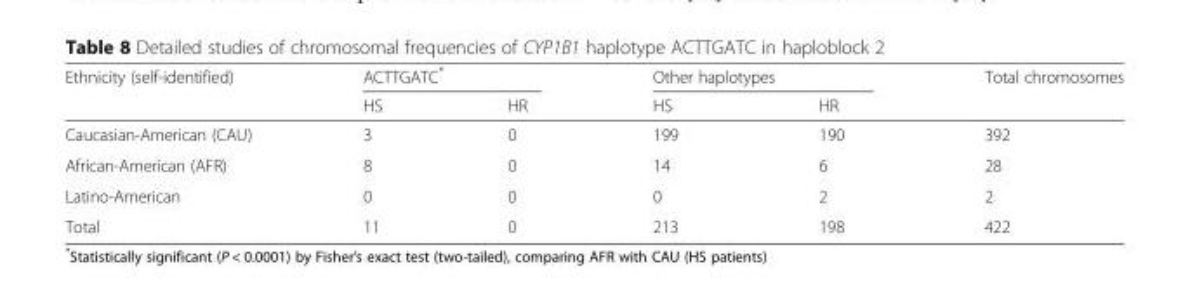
<table><thead><tr><td rowspan="2">Ethnicity (self-identified)</td><td colspan="2">ACTTGATC*</td><td colspan="2">Other haplotypes</td><td rowspan="2">Total chromosomes</td></tr><tr><td>HS</td><td>HR</td><td>HS</td><td>HR</td></tr></thead><tbody><tr><td>Caucasian-American (CAU)</td><td>3</td><td>0</td><td>199</td><td>190</td><td>392</td></tr><tr><td>African-American (AFR)</td><td>8</td><td>0</td><td>14</td><td>6</td><td>28</td></tr><tr><td>Latino-American</td><td>0</td><td>0</td><td>0</td><td>2</td><td>2</td></tr><tr><td>Total</td><td>11</td><td>0</td><td>213</td><td>198</td><td>422</td></tr></tbody></table>